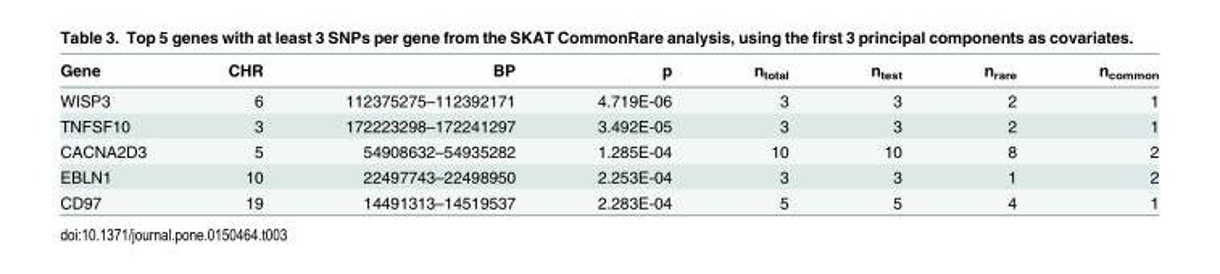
<table><thead><tr><td>Gene</td><td>CHR</td><td>BP</td><td>p</td><td>n<sub>total</sub></td><td>n<sub>test</sub></td><td>n<sub>rare</sub></td><td>n<sub>common</sub></td></tr></thead><tbody><tr><td>WISP3</td><td>6</td><td>112375275–112392171</td><td>4.719E-06</td><td>3</td><td>3</td><td>2</td><td>1</td></tr><tr><td>TNFSF10</td><td>3</td><td>172223298–172241297</td><td>3.492E-05</td><td>3</td><td>3</td><td>2</td><td>1</td></tr><tr><td>CACNA2D3</td><td>5</td><td>54908632–54935282</td><td>1.285E-04</td><td>10</td><td>10</td><td>8</td><td>2</td></tr><tr><td>EBLN1</td><td>10</td><td>22497743–22498950</td><td>2.253E-04</td><td>3</td><td>3</td><td>1</td><td>2</td></tr><tr><td>CD97</td><td>19</td><td>14491313–14519537</td><td>2.283E-04</td><td>5</td><td>5</td><td>4</td><td>1</td></tr></tbody></table>